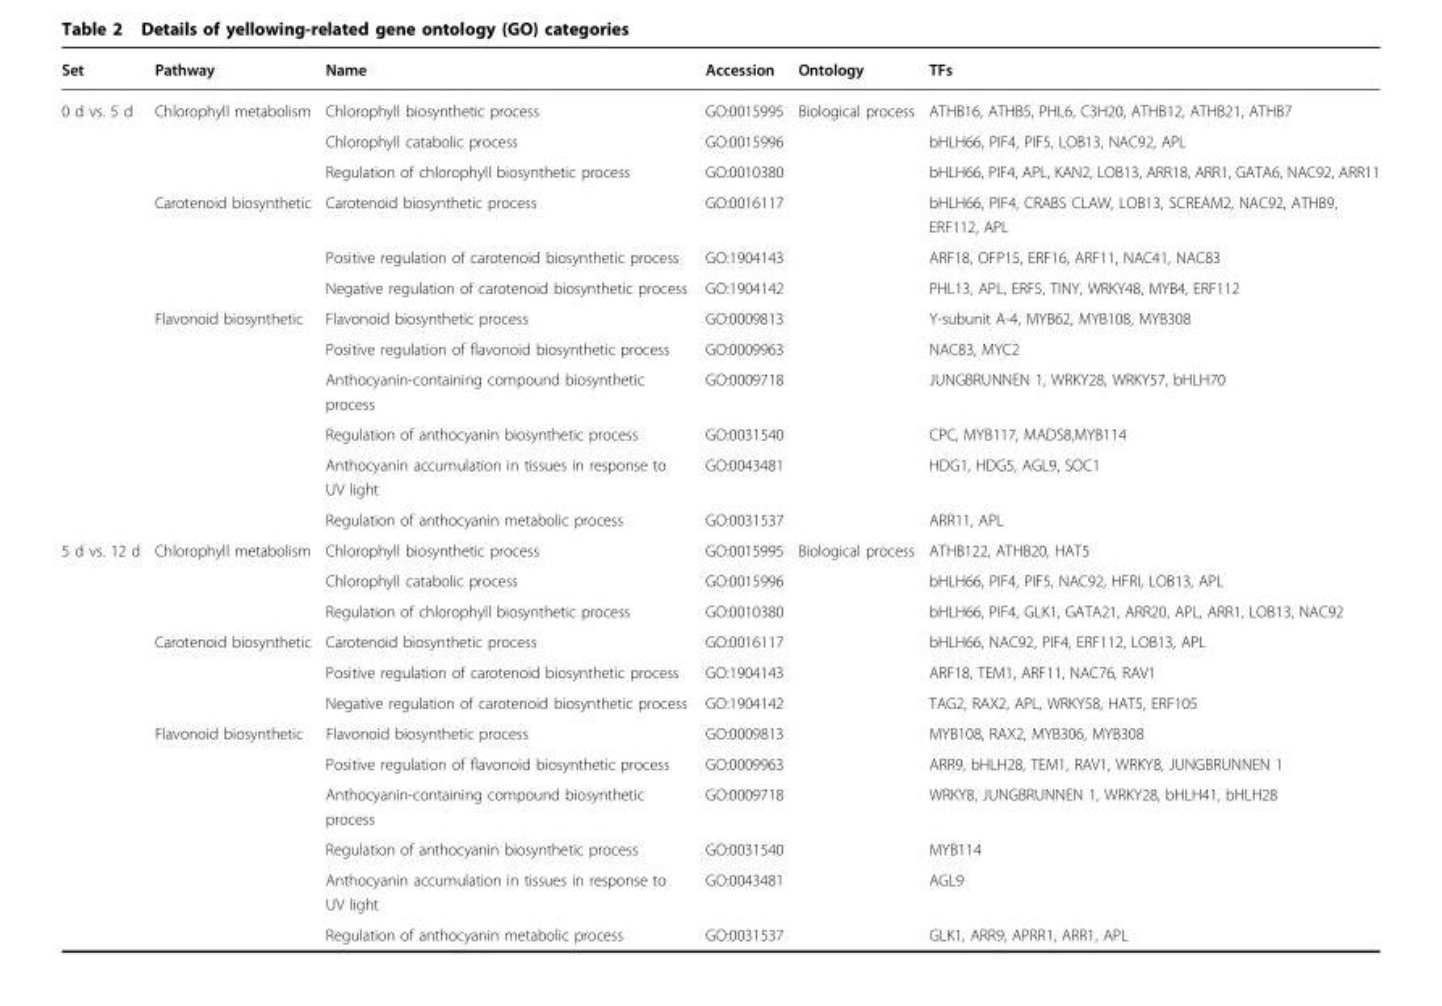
<table><thead><tr><td>Set</td><td>Pathway</td><td>Name</td><td>Accession</td><td>Ontology</td><td>TFs</td></tr></thead><tbody><tr><td rowspan="12">0 d vs. 5 d</td><td rowspan="3">Chlorophyll metabolism</td><td>Chlorophyll biosynthetic process</td><td>GO:0015995</td><td rowspan="12">Biological process</td><td>ATHB16, ATHB5, PHL6, C3H20, ATHB12, ATHB21, ATHB7</td></tr><tr><td>Chlorophyll catabolic process</td><td>GO:0015996</td><td>bHLH66, PIF4, PIF5, LOB13, NAC92, APL</td></tr><tr><td>Regulation of chlorophyll biosynthetic process</td><td>GO:0010380</td><td>bHLH66, PIF4, APL, KAN2, LOB13, ARR18, ARR1, GATA6, NAC92, ARR11</td></tr><tr><td rowspan="3">Carotenoid biosynthetic</td><td>Carotenoid biosynthetic process</td><td>GO:0016117</td><td>bHLH66, PIF4, CRABS CLAW, LOB13, SCREAM2, NAC92, ATHB9, ERF112, APL</td></tr><tr><td>Positive regulation of carotenoid biosynthetic process</td><td>GO:1904143</td><td>ARF18, OFP15, ERF16, ARF11, NAC41, NAC83</td></tr><tr><td>Negative regulation of carotenoid biosynthetic process</td><td>GO:1904142</td><td>PHL13, APL, ERF5, TINY, WRKY48, MYB4, ERF112</td></tr><tr><td rowspan="6">Flavonoid biosynthetic</td><td>Flavonoid biosynthetic process</td><td>GO:0009813</td><td>Y-subunit A-4, MYB62, MYB108, MYB308</td></tr><tr><td>Positive regulation of flavonoid biosynthetic process</td><td>GO:0009963</td><td>NAC83, MYC2</td></tr><tr><td>Anthocyanin-containing compound biosynthetic process</td><td>GO:0009718</td><td>JUNGBRUNNEN 1, WRKY28, WRKY57, bHLH70</td></tr><tr><td>Regulation of anthocyanin biosynthetic process</td><td>GO:0031540</td><td>CPC, MYB117, MADS8,MYB114</td></tr><tr><td>Anthocyanin accumulation in tissues in response to UV light</td><td>GO:0043481</td><td>HDG1, HDG5, AGL9, SOC1</td></tr><tr><td>Regulation of anthocyanin metabolic process</td><td>GO:0031537</td><td>ARR11, APL</td></tr><tr><td rowspan="12">5 d vs. 12 d</td><td rowspan="3">Chlorophyll metabolism</td><td>Chlorophyll biosynthetic process</td><td>GO:0015995</td><td rowspan="12">Biological process</td><td>ATHB122, ATHB20, HAT5</td></tr><tr><td>Chlorophyll catabolic process</td><td>GO:0015996</td><td>bHLH66, PIF4, PIF5, NAC92, HFRI, LOB13, APL</td></tr><tr><td>Regulation of chlorophyll biosynthetic process</td><td>GO:0010380</td><td>bHLH66, PIF4, GLK1, GATA21, ARR20, APL, ARR1, LOB13, NAC92</td></tr><tr><td rowspan="3">Carotenoid biosynthetic</td><td>Carotenoid biosynthetic process</td><td>GO:0016117</td><td>bHLH66, NAC92, PIF4, ERF112, LOB13, APL</td></tr><tr><td>Positive regulation of carotenoid biosynthetic process</td><td>GO:1904143</td><td>ARF18, TEM1, ARF11, NAC76, RAV1</td></tr><tr><td>Negative regulation of carotenoid biosynthetic process</td><td>GO:1904142</td><td>TAG2, RAX2, APL, WRKY58, HAT5, ERF105</td></tr><tr><td rowspan="6">Flavonoid biosynthetic</td><td>Flavonoid biosynthetic process</td><td>GO:0009813</td><td>MYB108, RAX2, MYB306, MYB308</td></tr><tr><td>Positive regulation of flavonoid biosynthetic process</td><td>GO:0009963</td><td>ARR9, bHLH28, TEM1, RAV1, WRKY8, JUNGBRUNNEN 1</td></tr><tr><td>Anthocyanin-containing compound biosynthetic process</td><td>GO:0009718</td><td>WRKY8, JUNGBRUNNEN 1, WRKY28, bHLH41, bHLH28</td></tr><tr><td>Regulation of anthocyanin biosynthetic process</td><td>GO:0031540</td><td>MYB114</td></tr><tr><td>Anthocyanin accumulation in tissues in response to UV light</td><td>GO:0043481</td><td>AGL9</td></tr><tr><td>Regulation of anthocyanin metabolic process</td><td>GO:0031537</td><td>GLK1, ARR9, APRR1, ARR1, APL</td></tr></tbody></table>